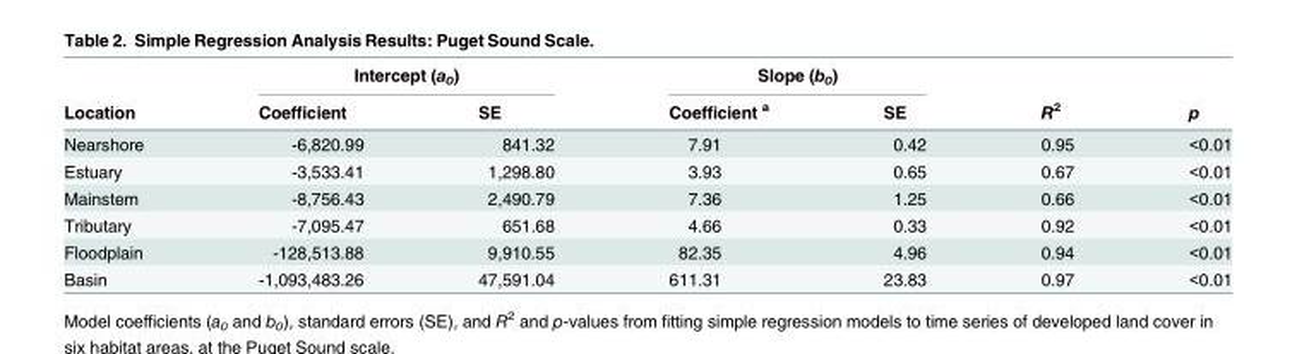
<table><thead><tr><td rowspan="2">Location</td><td colspan="2">Intercept (a<sub>0</sub>)</td><td colspan="2">Slope (b<sub>0</sub>)</td><td rowspan="2">R<sup>2</sup></td><td rowspan="2">p</td></tr><tr><td>Coefficient</td><td>SE</td><td>Coefficient <sup>a</sup></td><td>SE</td></tr></thead><tbody><tr><td>Nearshore</td><td>-6,820.99</td><td>841.32</td><td>7.91</td><td>0.42</td><td>0.95</td><td>&lt;0.01</td></tr><tr><td>Estuary</td><td>-3,533.41</td><td>1,298.80</td><td>3.93</td><td>0.65</td><td>0.67</td><td>&lt;0.01</td></tr><tr><td>Mainstem</td><td>-8,756.43</td><td>2,490.79</td><td>7.36</td><td>1.25</td><td>0.66</td><td>&lt;0.01</td></tr><tr><td>Tributary</td><td>-7,095.47</td><td>651.68</td><td>4.66</td><td>0.33</td><td>0.92</td><td>&lt;0.01</td></tr><tr><td>Floodplain</td><td>-128,513.88</td><td>9,910.55</td><td>82.35</td><td>4.96</td><td>0.94</td><td>&lt;0.01</td></tr><tr><td>Basin</td><td>-1,093,483.26</td><td>47,591.04</td><td>611.31</td><td>23.83</td><td>0.97</td><td>&lt;0.01</td></tr></tbody></table>